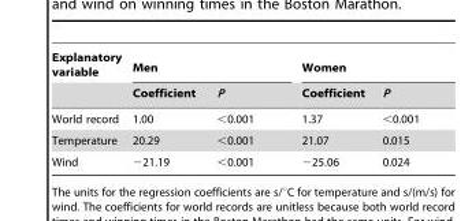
<table><thead><tr><td rowspan="2">Explanatory variable</td><td colspan="2">Men</td><td colspan="2">Women</td></tr><tr><td>Coefficient</td><td>P</td><td>Coefficient</td><td>P</td></tr></thead><tbody><tr><td>World record</td><td>1.00</td><td>&lt;0.001</td><td>1.37</td><td>&lt;0.001</td></tr><tr><td>Temperature</td><td>20.29</td><td>&lt;0.001</td><td>21.07</td><td>0.015</td></tr><tr><td>Wind</td><td>−21.19</td><td>&lt;0.001</td><td>−25.06</td><td>0.024</td></tr></tbody></table>